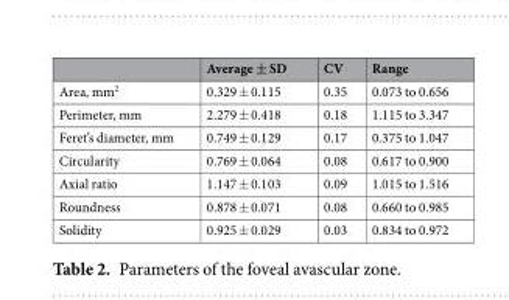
<table><thead><tr><td></td><td>Average ± SD</td><td>CV</td><td>Range</td></tr></thead><tbody><tr><td>Area, mm<sup>2</sup></td><td>0.329 ± 0.115</td><td>0.35</td><td>0.073 to 0.656</td></tr><tr><td>Perimeter, mm</td><td>2.279 ± 0.418</td><td>0.18</td><td>1.115 to 3.347</td></tr><tr><td>Feret’s diameter, mm</td><td>0.749 ± 0.129</td><td>0.17</td><td>0.375 to 1.047</td></tr><tr><td>Circularity</td><td>0.769 ± 0.064</td><td>0.08</td><td>0.617 to 0.900</td></tr><tr><td>Axial ratio</td><td>1.147 ± 0.103</td><td>0.09</td><td>1.015 to 1.516</td></tr><tr><td>Roundness</td><td>0.878 ± 0.071</td><td>0.08</td><td>0.660 to 0.985</td></tr><tr><td>Solidity</td><td>0.925 ± 0.029</td><td>0.03</td><td>0.834 to 0.972</td></tr></tbody></table>